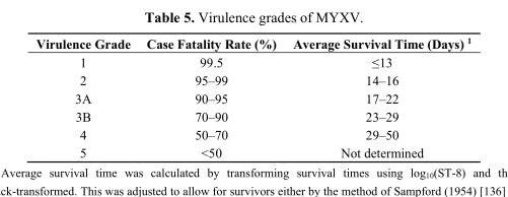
<table><thead><tr><td>Virulence Grade</td><td>Case Fatality Rate (%)</td><td>Average Survival Time (Days) <sup>1</sup></td></tr></thead><tbody><tr><td>1</td><td>99.5</td><td>≤13</td></tr><tr><td>2</td><td>95–99</td><td>14–16</td></tr><tr><td>3A</td><td>90–95</td><td>17–22</td></tr><tr><td>3B</td><td>70–90</td><td>23–29</td></tr><tr><td>4</td><td>50–70</td><td>29–50</td></tr><tr><td>5</td><td>&lt;50</td><td>Not determined</td></tr></tbody></table>